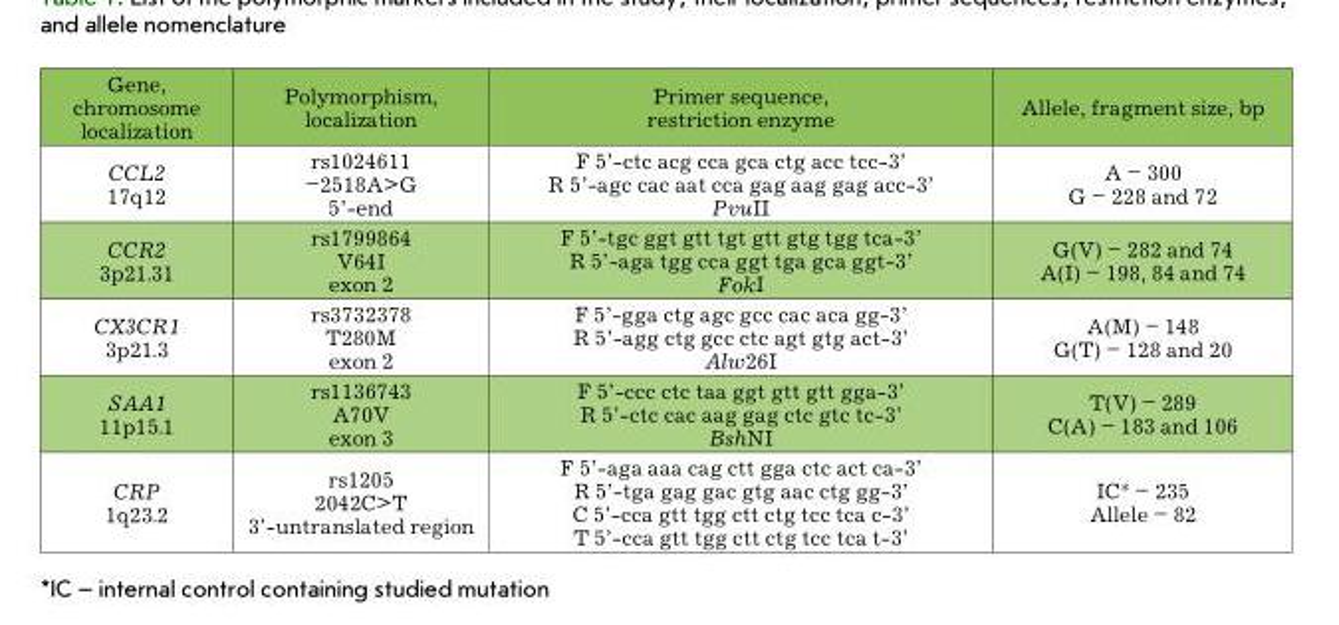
<table><thead><tr><td>Gene, chromosome localization</td><td>Polymorphism, localization</td><td>Primer sequence, restriction enzyme</td><td>Allele, fragment size, bp</td></tr></thead><tbody><tr><td>CCL2 17q12</td><td>rs1024611 –2518A&gt;G 5’-end</td><td>F 5’-ctc acg cca gca ctg acc tcc-3’ R 5’-agc cac aat cca gag aag gag acc-3’ PvuII</td><td>A – 300 G – 228 and 72</td></tr><tr><td>CCR2 3p21.31</td><td>rs1799864 V64I exon 2</td><td>F 5’-tgc ggt gtt tgt gtt gtg tgg tca-3’ R 5’-aga tgg cca ggt tga gca ggt-3’ FokI</td><td>G(V) – 282 and 74 A(I) – 198, 84 and 74</td></tr><tr><td>CX3CR1 3p21.3</td><td>rs3732378 T280M exon 2</td><td>F 5’-gga ctg agc gcc cac aca gg-3’ R 5’-agg ctg gcc ctc agt gtg act-3’ Alw26I</td><td>A(M) – 148 G(T) – 128 and 20</td></tr><tr><td>SAA1 11p15.1</td><td>rs1136743 A70V exon 3</td><td>F 5’-ccc ctc taa ggt gtt gtt gga-3’ R 5’-ctc cac aag gag ctc gtc tc-3’ BshNI</td><td>T(V) – 289 C(A) – 183 and 106</td></tr><tr><td>CRP 1q23.2</td><td>rs1205 2042C&gt;T 3’-untranslated region</td><td>F 5’-aga aaa cag ctt gga ctc act ca-3’ R 5’-tga gag gac gtg aac ctg gg-3’ C 5’-cca gtt tgg ctt ctg tcc tca c-3’ T 5’-cca gtt tgg ctt ctg tcc tca t-3’</td><td>IC* – 235 Allele – 82</td></tr></tbody></table>